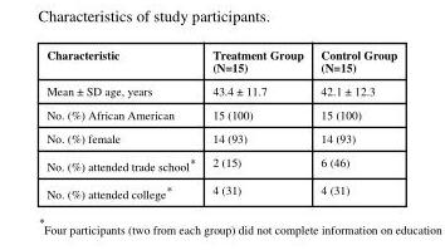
<table><thead><tr><td>Characteristic</td><td>Treatment Group (N=15)</td><td>Control Group (N=15)</td></tr></thead><tbody><tr><td>Mean ± SD age, years</td><td>43.4 ± 11.7</td><td>42.1 ± 12.3</td></tr><tr><td>No. (%) African American</td><td>15 (100)</td><td>15 (100)</td></tr><tr><td>No. (%) female</td><td>14 (93)</td><td>14 (93)</td></tr><tr><td>No. (%) attended trade school*</td><td>2 (15)</td><td>6 (46)</td></tr><tr><td>No. (%) attended college*</td><td>4 (31)</td><td>4 (31)</td></tr></tbody></table>